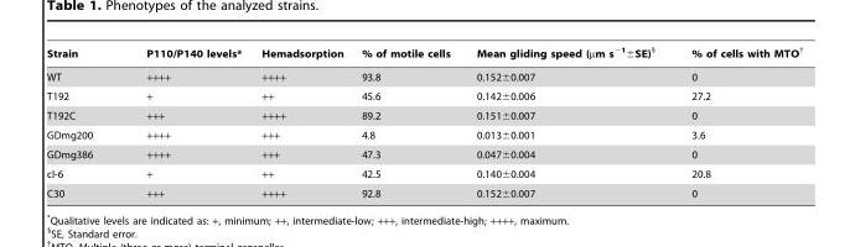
<table><thead><tr><td>Strain</td><td>P110/P140 levels*</td><td>Hemadsorption</td><td>% of motile cells</td><td>Mean gliding speed (µm s<sup>−1</sup>±SE)§</td><td>% of cells with MTO†</td></tr></thead><tbody><tr><td>WT</td><td>++++</td><td>++++</td><td>93.8</td><td>0.152±0.007</td><td>0</td></tr><tr><td>T192</td><td>+</td><td>++</td><td>45.6</td><td>0.142±0.006</td><td>27.2</td></tr><tr><td>T192C</td><td>+++</td><td>++++</td><td>89.2</td><td>0.151±0.007</td><td>0</td></tr><tr><td>GDmg200</td><td>++++</td><td>+++</td><td>4.8</td><td>0.013±0.001</td><td>3.6</td></tr><tr><td>GDmg386</td><td>++++</td><td>+++</td><td>47.3</td><td>0.047±0.004</td><td>0</td></tr><tr><td>cI-6</td><td>+</td><td>++</td><td>42.5</td><td>0.140±0.004</td><td>20.8</td></tr><tr><td>C30</td><td>+++</td><td>++++</td><td>92.8</td><td>0.152±0.007</td><td>0</td></tr></tbody></table>